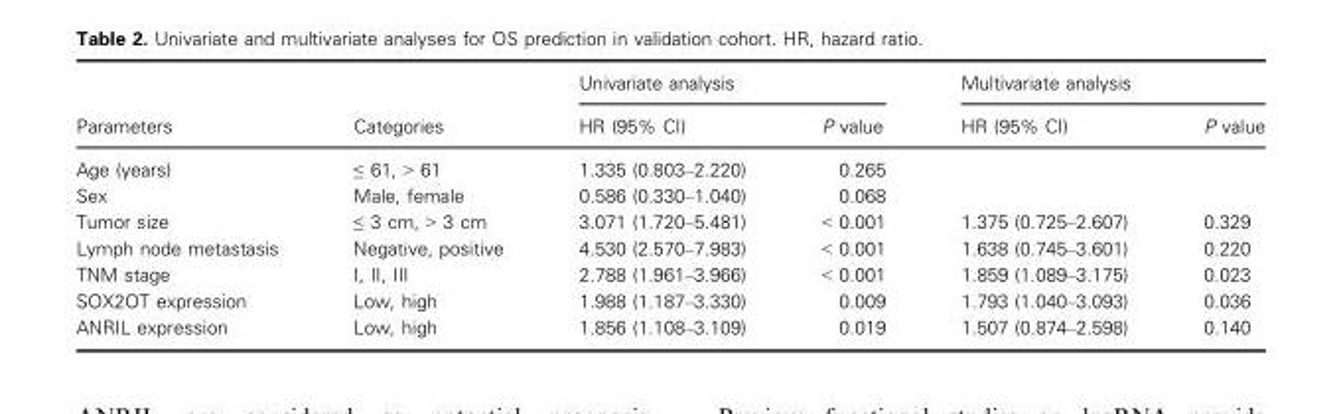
<table><thead><tr><td rowspan="2">Parameters</td><td rowspan="2">Categories</td><td colspan="2">Univariate analysis</td><td colspan="2">Multivariate analysis</td></tr><tr><td>HR (95% CI)</td><td>P value</td><td>HR (95% CI)</td><td>P value</td></tr></thead><tbody><tr><td>Age (years)</td><td>≤ 61, &gt; 61</td><td>1.335 (0.803–2.220)</td><td>0.265</td><td></td><td></td></tr><tr><td>Sex</td><td>Male, female</td><td>0.586 (0.330–1.040)</td><td>0.068</td><td></td><td></td></tr><tr><td>Tumor size</td><td>≤ 3 cm, &gt; 3 cm</td><td>3.071 (1.720–5.481)</td><td>&lt; 0.001</td><td>1.375 (0.725–2.607)</td><td>0.329</td></tr><tr><td>Lymph node metastasis</td><td>Negative, positive</td><td>4.530 (2.570–7.983)</td><td>&lt; 0.001</td><td>1.638 (0.745–3.601)</td><td>0.220</td></tr><tr><td>TNM stage</td><td>I, II, III</td><td>2.788 (1.961–3.966)</td><td>&lt; 0.001</td><td>1.859 (1.089–3.175)</td><td>0.023</td></tr><tr><td>SOX2OT expression</td><td>Low, high</td><td>1.988 (1.187–3.330)</td><td>0.009</td><td>1.793 (1.040–3.093)</td><td>0.036</td></tr><tr><td>ANRIL expression</td><td>Low, high</td><td>1.856 (1.108–3.109)</td><td>0.019</td><td>1.507 (0.874–2.598)</td><td>0.140</td></tr></tbody></table>